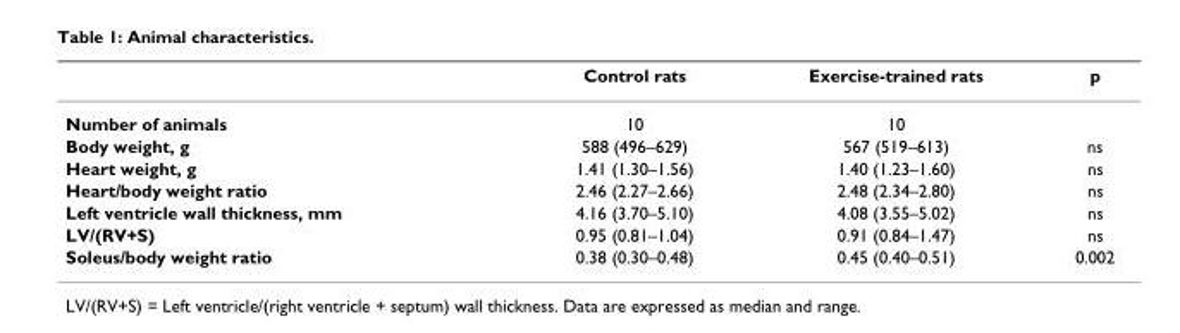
<table><thead><tr><td></td><td>Control rats</td><td>Exercise-trained rats</td><td>p</td></tr></thead><tbody><tr><td>Number of animals</td><td>10</td><td>10</td><td></td></tr><tr><td>Body weight, g</td><td>588 (496–629)</td><td>567 (519–613)</td><td>ns</td></tr><tr><td>Heart weight, g</td><td>1.41 (1.30–1.56)</td><td>1.40 (1.23–1.60)</td><td>ns</td></tr><tr><td>Heart/body weight ratio</td><td>2.46 (2.27–2.66)</td><td>2.48 (2.34–2.80)</td><td>ns</td></tr><tr><td>Left ventricle wall thickness, mm</td><td>4.16 (3.70–5.10)</td><td>4.08 (3.55–5.02)</td><td>ns</td></tr><tr><td>LV/(RV+S)</td><td>0.95 (0.81–1.04)</td><td>0.91 (0.84–1.47)</td><td>ns</td></tr><tr><td>Soleus/body weight ratio</td><td>0.38 (0.30–0.48)</td><td>0.45 (0.40–0.51)</td><td>0.002</td></tr></tbody></table>